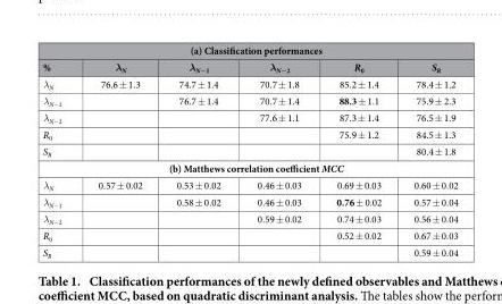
<table><thead><tr><td colspan="6">(a) Classification performances</td></tr><tr><td>%</td><td>λ<sub>N</sub></td><td>λ<sub>N−1</sub></td><td>λ<sub>N−2</sub></td><td>R<sub>0</sub></td><td>S<sub>R</sub></td></tr></thead><tbody><tr><td>λ<sub>N</sub></td><td>76.6 ± 1.3</td><td>74.7 ± 1.4</td><td>70.7 ± 1.8</td><td>85.2 ± 1.4</td><td>78.4 ± 1.2</td></tr><tr><td>λ<sub>N−1</sub></td><td></td><td>76.7 ± 1.4</td><td>70.7 ± 1.4</td><td>88.3 ± 1.1</td><td>75.9 ± 2.3</td></tr><tr><td>λ<sub>N−2</sub></td><td></td><td></td><td>77.6 ± 1.1</td><td>87.3 ± 1.4</td><td>76.5 ± 1.9</td></tr><tr><td>R<sub>0</sub></td><td></td><td></td><td></td><td>75.9 ± 1.2</td><td>84.5 ± 1.3</td></tr><tr><td>S<sub>R</sub></td><td></td><td></td><td></td><td></td><td>80.4 ± 1.8</td></tr><tr><td colspan="6">(b) Matthews correlation coefficient MCC</td></tr><tr><td>λ<sub>N</sub></td><td>0.57 ± 0.02</td><td>0.53 ± 0.02</td><td>0.46 ± 0.03</td><td>0.69 ± 0.03</td><td>0.60 ± 0.02</td></tr><tr><td>λ<sub>N−1</sub></td><td></td><td>0.58 ± 0.02</td><td>0.46 ± 0.03</td><td>0.76 ± 0.02</td><td>0.57 ± 0.04</td></tr><tr><td>λ<sub>N−2</sub></td><td></td><td></td><td>0.59 ± 0.02</td><td>0.74 ± 0.03</td><td>0.56 ± 0.04</td></tr><tr><td>R<sub>0</sub></td><td></td><td></td><td></td><td>0.52 ± 0.02</td><td>0.67 ± 0.03</td></tr><tr><td>S<sub>R</sub></td><td></td><td></td><td></td><td></td><td>0.59 ± 0.04</td></tr></tbody></table>